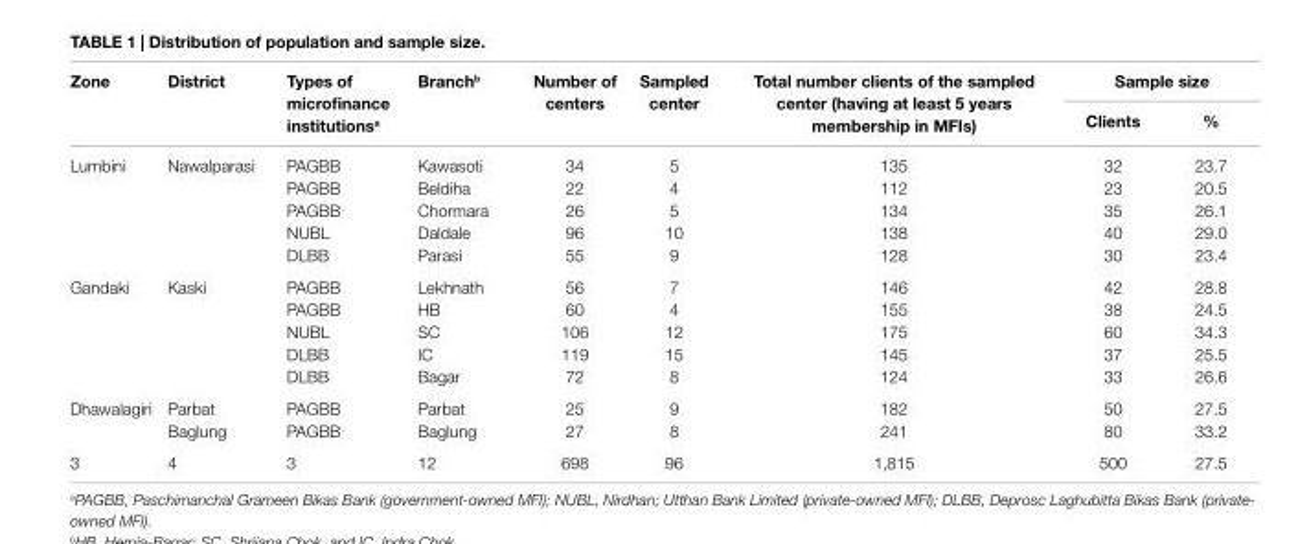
<table><thead><tr><td rowspan="2">Zone</td><td rowspan="2">District</td><td rowspan="2">Types of microfinance institutions<sup>a</sup></td><td rowspan="2">Branch<sup>b</sup></td><td rowspan="2">number of centers</td><td rowspan="2">sampled center</td><td rowspan="2">Total number clients of the sampled center (having at least 5 years membership in MFis)</td><td colspan="2">sample size</td></tr><tr><td>clients</td><td>%</td></tr></thead><tbody><tr><td rowspan="5">Lumbini</td><td rowspan="5">Nawalparasi</td><td>PAGBB</td><td>Kawasoti</td><td>34</td><td>5</td><td>135</td><td>32</td><td>23.7</td></tr><tr><td>PAGBB</td><td>Beldiha</td><td>22</td><td>4</td><td>112</td><td>23</td><td>20.5</td></tr><tr><td>PAGBB</td><td>Chormara</td><td>26</td><td>5</td><td>134</td><td>35</td><td>26.1</td></tr><tr><td>NUBL</td><td>Daldale</td><td>96</td><td>10</td><td>138</td><td>40</td><td>29.0</td></tr><tr><td>DLBB</td><td>Parasi</td><td>55</td><td>9</td><td>128</td><td>30</td><td>23.4</td></tr><tr><td rowspan="5">Gandaki</td><td rowspan="5">Kaski</td><td>PAGBB</td><td>Lekhnath</td><td>56</td><td>7</td><td>146</td><td>42</td><td>28.8</td></tr><tr><td>PAGBB</td><td>HB</td><td>60</td><td>4</td><td>155</td><td>38</td><td>24.5</td></tr><tr><td>NUBL</td><td>SC</td><td>106</td><td>12</td><td>175</td><td>60</td><td>34.3</td></tr><tr><td>DLBB</td><td>IC</td><td>119</td><td>15</td><td>145</td><td>37</td><td>25.5</td></tr><tr><td>DLBB</td><td>Bagar</td><td>72</td><td>8</td><td>124</td><td>33</td><td>26.6</td></tr><tr><td rowspan="2">Dhawalagiri</td><td>Parbat</td><td>PAGBB</td><td>Parbat</td><td>25</td><td>9</td><td>182</td><td>50</td><td>27.5</td></tr><tr><td>Baglung</td><td>PAGBB</td><td>Baglung</td><td>27</td><td>8</td><td>241</td><td>80</td><td>33.2</td></tr><tr><td>3</td><td>4</td><td>3</td><td>12</td><td>698</td><td>96</td><td>1,815</td><td>500</td><td>27.5</td></tr></tbody></table>